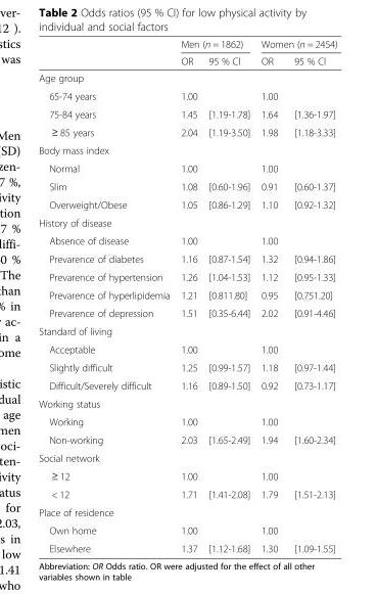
<table><thead><tr><td rowspan="2"></td><td colspan="2">Men (n = 1862)</td><td colspan="2">Women (n = 2454)</td></tr><tr><td>OR</td><td>95 % Cl</td><td>OR</td><td>95 % Cl</td></tr></thead><tbody><tr><td colspan="5">Age group</td></tr><tr><td>65-74 years</td><td>1.00</td><td></td><td>1.00</td><td></td></tr><tr><td>75-84 years</td><td>1.45</td><td>[1.19-1.78]</td><td>1.64</td><td>[1.36-1.97]</td></tr><tr><td>≥ 85 years</td><td>2.04</td><td>[1.19-3.50]</td><td>1.98</td><td>[1.18-3.33]</td></tr><tr><td colspan="5">Body mass index</td></tr><tr><td>Normal</td><td>1.00</td><td></td><td>1.00</td><td></td></tr><tr><td>Slim</td><td>1.08</td><td>[0.60-1.96]</td><td>0.91</td><td>[0.60-1.37]</td></tr><tr><td>Overweight/Obese</td><td>1.05</td><td>[0.86-1.29]</td><td>1.10</td><td>[0.92-1.32]</td></tr><tr><td colspan="5">History of disease</td></tr><tr><td>Absence of disease</td><td>1.00</td><td></td><td>1.00</td><td></td></tr><tr><td>Prevarence of diabetes</td><td>1.16</td><td>[0.87-1.54]</td><td>1.32</td><td>[0.94-1.86]</td></tr><tr><td>Prevarence of hypertension</td><td>1.26</td><td>[1.04-1.53]</td><td>1.12</td><td>[0.95-1.33]</td></tr><tr><td>Prevarence of hyperlipidemia</td><td>1.21</td><td>[0.811.80]</td><td>0.95</td><td>[0.751.20]</td></tr><tr><td>Prevarence of depression</td><td>1.51</td><td>[0.35-6.44]</td><td>2.02</td><td>[0.91-4.46]</td></tr><tr><td colspan="5">Standard of living</td></tr><tr><td>Acceptable</td><td>1.00</td><td></td><td>1.00</td><td></td></tr><tr><td>Slightly difficult</td><td>1.25</td><td>[0.99-1.57]</td><td>1.18</td><td>[0.97-1.44]</td></tr><tr><td>Difficult/Severely difficult</td><td>1.16</td><td>[0.89-1.50]</td><td>0.92</td><td>[0.73-1.17]</td></tr><tr><td colspan="5">Working status</td></tr><tr><td>Working</td><td>1.00</td><td></td><td>1.00</td><td></td></tr><tr><td>Non-working</td><td>2.03</td><td>[1.65-2.49]</td><td>1.94</td><td>[1.60-2.34]</td></tr><tr><td colspan="5">Social network</td></tr><tr><td>≥ 12</td><td>1.00</td><td></td><td>1.00</td><td></td></tr><tr><td>&lt; 12</td><td>1.71</td><td>[1.41-2.08]</td><td>1.79</td><td>[1.51-2.13]</td></tr><tr><td colspan="5">Place of residence</td></tr><tr><td>Own home</td><td>1.00</td><td></td><td>1.00</td><td></td></tr><tr><td>Elsewhere</td><td>1.37</td><td>[1.12-1.68]</td><td>1.30</td><td>[1.09-1.55]</td></tr></tbody></table>